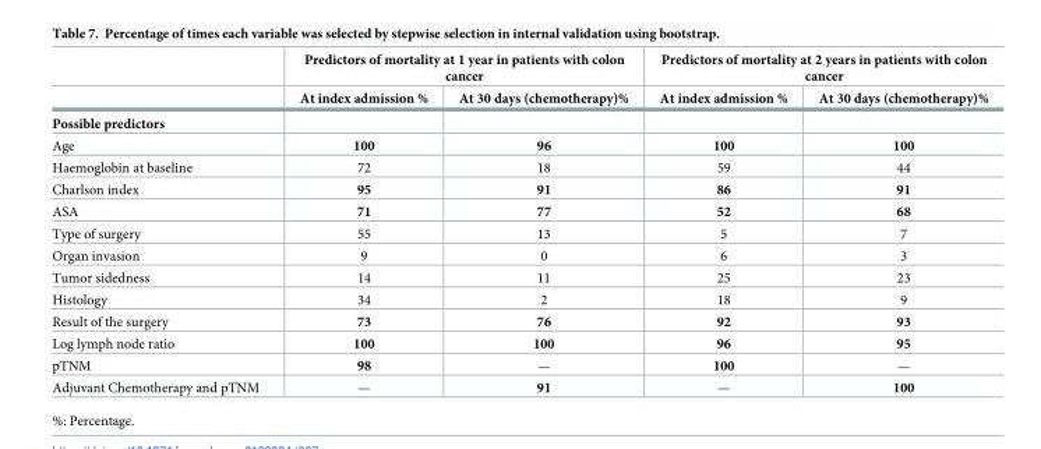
<table><thead><tr><td rowspan="2"></td><td colspan="2">Predictors of mortality at 1 year in patients with colon cancer</td><td colspan="2">Predictors of mortality at 2 years in patients with colon cancer</td></tr><tr><td>At index admission %</td><td>At 30 days (chemotherapy)%</td><td>At index admission %</td><td>At 30 days (chemotherapy)%</td></tr></thead><tbody><tr><td colspan="5">Possible predictors</td></tr><tr><td>Age</td><td>100</td><td>96</td><td>100</td><td>100</td></tr><tr><td>Haemoglobin at baseline</td><td>72</td><td>18</td><td>59</td><td>44</td></tr><tr><td>Charlson index</td><td>95</td><td>91</td><td>86</td><td>91</td></tr><tr><td>ASA</td><td>71</td><td>77</td><td>52</td><td>68</td></tr><tr><td>Type of surgery</td><td>55</td><td>13</td><td>5</td><td>7</td></tr><tr><td>Organ invasion</td><td>9</td><td>0</td><td>6</td><td>3</td></tr><tr><td>Tumor sidedness</td><td>14</td><td>11</td><td>25</td><td>23</td></tr><tr><td>Histology</td><td>34</td><td>2</td><td>18</td><td>9</td></tr><tr><td>Result of the surgery</td><td>73</td><td>76</td><td>92</td><td>93</td></tr><tr><td>Log lymph node ratio</td><td>100</td><td>100</td><td>96</td><td>95</td></tr><tr><td>pTNM</td><td>98</td><td>—</td><td>100</td><td>—</td></tr><tr><td>Adjuvant Chemotherapy and pTNM</td><td>—</td><td>91</td><td>—</td><td>100</td></tr></tbody></table>